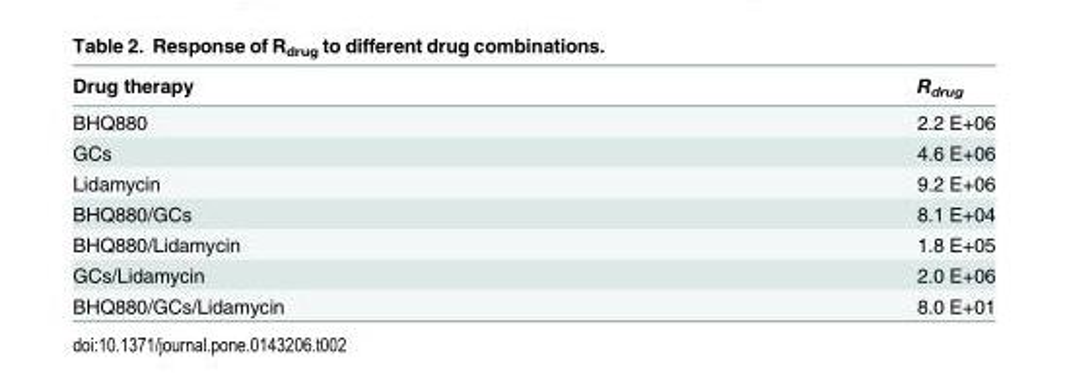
<table><thead><tr><td>Drug therapy</td><td>R<sub>drug</sub></td></tr></thead><tbody><tr><td>BHQ880</td><td>2.2 E+06</td></tr><tr><td>GCs</td><td>4.6 E+06</td></tr><tr><td>Lidamycin</td><td>9.2 E+06</td></tr><tr><td>BHQ880/GCs</td><td>8.1 E+04</td></tr><tr><td>BHQ880/Lidamycin</td><td>1.8 E+05</td></tr><tr><td>GCs/Lidamycin</td><td>2.0 E+06</td></tr><tr><td>BHQ880/GCs/Lidamycin</td><td>8.0 E+01</td></tr></tbody></table>